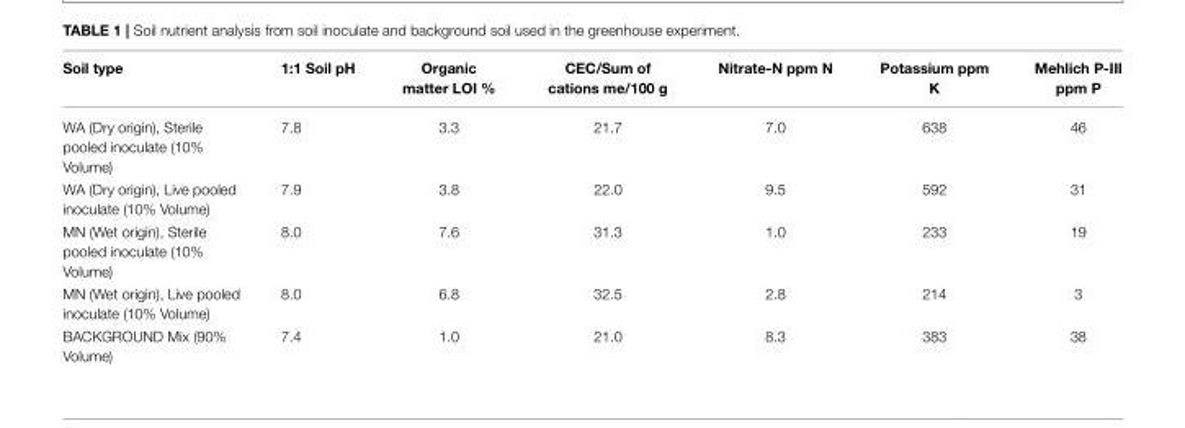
<table><thead><tr><td>Soil type</td><td>1:1 Soil pH</td><td>Organic matter LOI %</td><td>CEC/Sum of cations me/100 g</td><td>Nitrate-N ppm N</td><td>Potassium ppm K</td><td>Mehlich P-III ppm P</td></tr></thead><tbody><tr><td>WA (Dry origin), Sterile pooled inoculate (10% Volume)</td><td>7.8</td><td>3.3</td><td>21.7</td><td>7.0</td><td>638</td><td>46</td></tr><tr><td>WA (Dry origin), Live pooled inoculate (10% Volume)</td><td>7.9</td><td>3.8</td><td>22.0</td><td>9.5</td><td>592</td><td>31</td></tr><tr><td>MN (Wet origin), Sterile pooled inoculate (10% Volume)</td><td>8.0</td><td>7.6</td><td>31.3</td><td>1.0</td><td>233</td><td>19</td></tr><tr><td>MN (Wet origin), Live pooled inoculate (10% Volume)</td><td>8.0</td><td>6.8</td><td>32.5</td><td>2.8</td><td>214</td><td>3</td></tr><tr><td>BACKGROUND Mix (90% Volume)</td><td>7.4</td><td>1.0</td><td>21.0</td><td>8.3</td><td>383</td><td>38</td></tr></tbody></table>